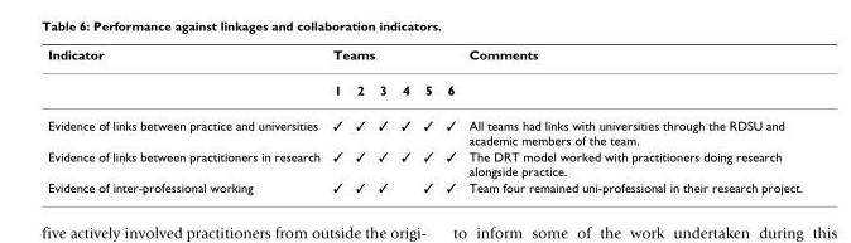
<table><thead><tr><td rowspan="2">Indicator</td><td colspan="6">Teams</td><td rowspan="2">Comments</td></tr><tr><td>1</td><td>2</td><td>3</td><td>4</td><td>5</td><td>6</td></tr></thead><tbody><tr><td>Evidence of links between practice and universities</td><td>✓</td><td>✓</td><td>✓</td><td>✓</td><td>✓</td><td>✓</td><td>All teams had links with universities through the RDSU and academic members of the team.</td></tr><tr><td>Evidence of links between practitioners in research</td><td>✓</td><td>✓</td><td>✓</td><td>✓</td><td>✓</td><td>✓</td><td>The DRT model worked with practitioners doing research alongside practice.</td></tr><tr><td>Evidence of inter-professional working</td><td>✓</td><td>✓</td><td>✓</td><td></td><td>✓</td><td>✓</td><td>Team four remained uni-professional in their research project.</td></tr></tbody></table>